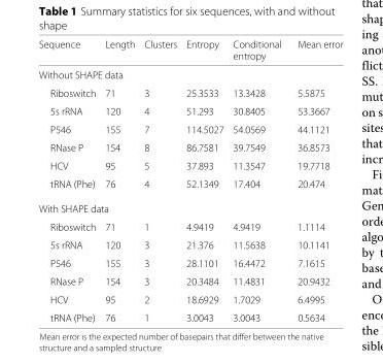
<table><thead><tr><td>Sequence</td><td>Length</td><td>Clusters</td><td>Entropy</td><td>Conditional entropy</td><td>Mean error</td></tr></thead><tbody><tr><td colspan="6">Without SHAPE data</td></tr><tr><td>Riboswitch</td><td>71</td><td>3</td><td>25.3533</td><td>13.3428</td><td>5.5875</td></tr><tr><td>5s rRNA</td><td>120</td><td>4</td><td>51.293</td><td>30.8405</td><td>53.3667</td></tr><tr><td>P546</td><td>155</td><td>7</td><td>114.5027</td><td>54.0569</td><td>44.1121</td></tr><tr><td>RNase P</td><td>154</td><td>8</td><td>86.7581</td><td>39.7549</td><td>36.8573</td></tr><tr><td>HCV</td><td>95</td><td>5</td><td>37.893</td><td>11.3547</td><td>19.7718</td></tr><tr><td>tRNA (Phe)</td><td>76</td><td>4</td><td>52.1349</td><td>17.404</td><td>20.474</td></tr><tr><td colspan="6">With SHAPE data</td></tr><tr><td>Riboswitch</td><td>71</td><td>1</td><td>4.9419</td><td>4.9419</td><td>1.1114</td></tr><tr><td>5s rRNA</td><td>120</td><td>3</td><td>21.376</td><td>11.5638</td><td>10.1141</td></tr><tr><td>P546</td><td>155</td><td>3</td><td>28.1101</td><td>16.4472</td><td>7.1615</td></tr><tr><td>RNase P</td><td>154</td><td>3</td><td>20.3484</td><td>11.4831</td><td>20.9432</td></tr><tr><td>HCV</td><td>95</td><td>2</td><td>18.6929</td><td>1.7029</td><td>6.4995</td></tr><tr><td>tRNA (Phe)</td><td>76</td><td>1</td><td>3.0043</td><td>3.0043</td><td>0.5634</td></tr></tbody></table>